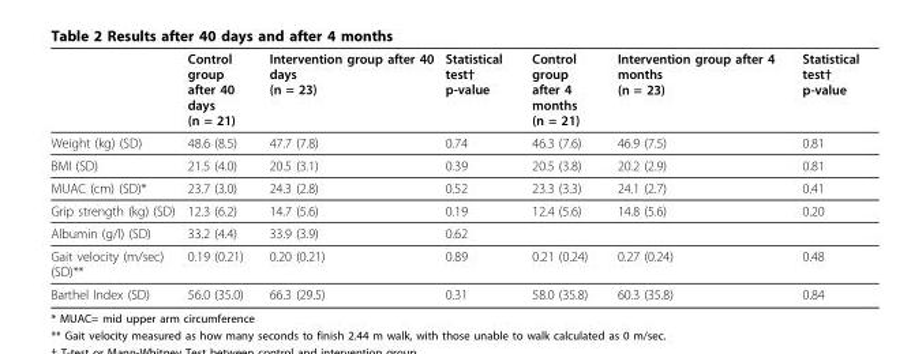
<table><thead><tr><td></td><td>Control group after 40 days (n = 21)</td><td>Intervention group after 40 days (n = 23)</td><td>Statistical test† p-value</td><td>Control group after 4 months (n = 21)</td><td>Intervention group after 4 months (n = 23)</td><td>Statistical test† p-value</td></tr></thead><tbody><tr><td>Weight (kg) (SD)</td><td>48.6 (8.5)</td><td>47.7 (7.8)</td><td>0.74</td><td>46.3 (7.6)</td><td>46.9 (7.5)</td><td>0.81</td></tr><tr><td>BMI (SD)</td><td>21.5 (4.0)</td><td>20.5 (3.1)</td><td>0.39</td><td>20.5 (3.8)</td><td>20.2 (2.9)</td><td>0.81</td></tr><tr><td>MUAC (cm) (SD)*</td><td>23.7 (3.0)</td><td>24.3 (2.8)</td><td>0.52</td><td>23.3 (3.3)</td><td>24.1 (2.7)</td><td>0.41</td></tr><tr><td>Grip strength (kg) (SD)</td><td>12.3 (6.2)</td><td>14.7 (5.6)</td><td>0.19</td><td>12.4 (5.6)</td><td>14.8 (5.6)</td><td>0.20</td></tr><tr><td>Albumin (g/l) (SD)</td><td>33.2 (4.4)</td><td>33.9 (3.9)</td><td>0.62</td><td></td><td></td><td></td></tr><tr><td>Gait velocity (m/sec) (SD)**</td><td>0.19 (0.21)</td><td>0.20 (0.21)</td><td>0.89</td><td>0.21 (0.24)</td><td>0.27 (0.24)</td><td>0.48</td></tr><tr><td>Barthel Index (SD)</td><td>56.0 (35.0)</td><td>66.3 (29.5)</td><td>0.31</td><td>58.0 (35.8)</td><td>60.3 (35.8)</td><td>0.84</td></tr></tbody></table>